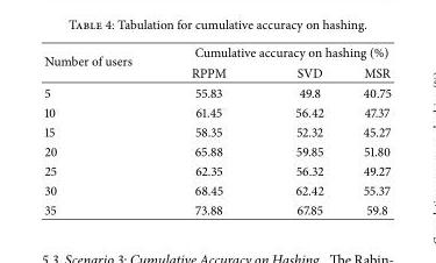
<table><thead><tr><td rowspan="2">Number of users</td><td colspan="3">Cumulative accuracy on hashing (%)</td></tr><tr><td>RPPM</td><td>SVD</td><td>MSR</td></tr></thead><tbody><tr><td>5</td><td>55.83</td><td>49.8</td><td>40.75</td></tr><tr><td>10</td><td>61.45</td><td>56.42</td><td>47.37</td></tr><tr><td>15</td><td>58.35</td><td>52.32</td><td>45.27</td></tr><tr><td>20</td><td>65.88</td><td>59.85</td><td>51.80</td></tr><tr><td>25</td><td>62.35</td><td>56.32</td><td>49.27</td></tr><tr><td>30</td><td>68.45</td><td>62.42</td><td>55.37</td></tr><tr><td>35</td><td>73.88</td><td>67.85</td><td>59.8</td></tr></tbody></table>